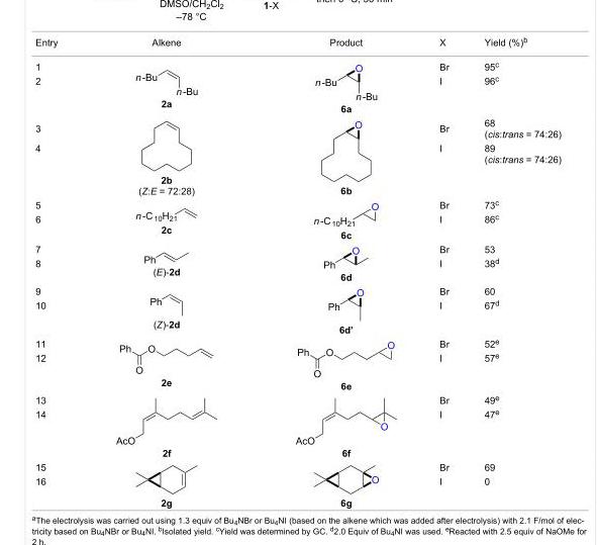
<table><tbody><tr><td>Entry</td><td>Alkene</td><td>Product</td><td>X</td><td>Yield (%)<sup>b</sup></td></tr><tr><td>1</td><td rowspan="2">2a</td><td rowspan="2">6a</td><td>Br</td><td>95<sup>c</sup></td></tr><tr><td>2</td><td>I</td><td>96<sup>c</sup></td></tr><tr><td>3</td><td rowspan="2">2b (Z:E = 72:28)</td><td rowspan="2">6b</td><td>Br</td><td>68 (cis:trans = 74:26)</td></tr><tr><td>4</td><td>I</td><td>89 (cis:trans = 74:26)</td></tr><tr><td>5</td><td rowspan="2">2c</td><td rowspan="2">6c</td><td>Br</td><td>73<sup>c</sup></td></tr><tr><td>6</td><td>I</td><td>86<sup>c</sup></td></tr><tr><td>7</td><td rowspan="2">(E)-2d</td><td rowspan="2">6d</td><td>Br</td><td>53</td></tr><tr><td>8</td><td>I</td><td>38<sup>d</sup></td></tr><tr><td>9</td><td rowspan="2">(Z)-2d</td><td rowspan="2">6d’</td><td>Br</td><td>60</td></tr><tr><td>10</td><td>I</td><td>67<sup>d</sup></td></tr><tr><td>11</td><td rowspan="2">2e</td><td rowspan="2">6e</td><td>Br</td><td>52<sup>e</sup></td></tr><tr><td>12</td><td>I</td><td>57<sup>e</sup></td></tr><tr><td>13</td><td rowspan="2">2f</td><td rowspan="2">6f</td><td>Br</td><td>49<sup>e</sup></td></tr><tr><td>14</td><td>I</td><td>47<sup>e</sup></td></tr><tr><td>15</td><td rowspan="2">2g</td><td rowspan="2">6g</td><td>Br</td><td>69</td></tr><tr><td>16</td><td>I</td><td>0</td></tr></tbody></table>